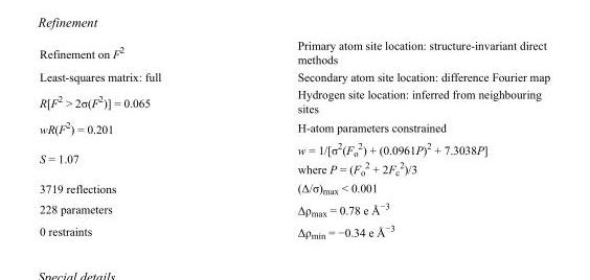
<table><tbody><tr><td>Refinement on F<sup>2</sup></td><td>Primary atom site location: structure-invariant direct methods</td></tr><tr><td>Least-squares matrix: full</td><td>Secondary atom site location: difference Fourier map</td></tr><tr><td>R[F<sup>2</sup> &gt; 2σ(F<sup>2</sup>)] = 0.065</td><td>Hydrogen site location: inferred from neighbouring sites</td></tr><tr><td>wR(F<sup>2</sup>) = 0.201</td><td>H-atom parameters constrained</td></tr><tr><td>S = 1.07</td><td>w = 1/[σ<sup>2</sup>(F<sub>o</sub> <sup>2</sup>) + (0.0961P)<sup>2</sup> + 7.3038P] where P = (F<sub>o</sub> <sup>2</sup> + 2F<sub>c</sub> <sup>2</sup>)/3</td></tr><tr><td>3719 reflections</td><td>(Δ/σ)<sub>max</sub> &lt; 0.001</td></tr><tr><td>228 parameters</td><td>Δρ<sub>max</sub> = 0.78 e Å<sup>−3</sup></td></tr><tr><td>0 restraints</td><td>Δρ<sub>min</sub> = −0.34 e Å<sup>−3</sup></td></tr></tbody></table>